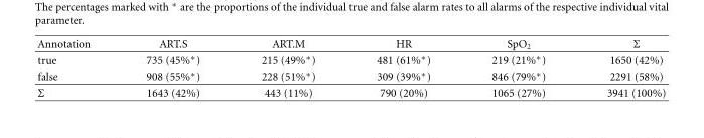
<table><thead><tr><td>Annotation</td><td>ART.S</td><td>ART.M</td><td>HR</td><td>SpO<sub>2</sub></td><td>Σ</td></tr></thead><tbody><tr><td>true</td><td>735 (45%∗)</td><td>215 (49%∗)</td><td>481 (61%∗)</td><td>219 (21%∗)</td><td>1650 (42%)</td></tr><tr><td>false</td><td>908 (55%∗)</td><td>228 (51%∗)</td><td>309 (39%∗)</td><td>846 (79%∗)</td><td>2291 (58%)</td></tr><tr><td>Σ</td><td>1643 (42%)</td><td>443 (11%)</td><td>790 (20%)</td><td>1065 (27%)</td><td>3941 (100%)</td></tr></tbody></table>